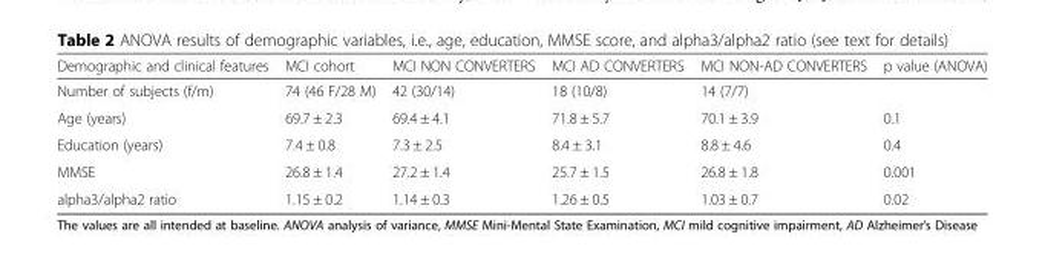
<table><thead><tr><td>Demographic and clinical features</td><td>MCI cohort</td><td>MCI NON CONVERTERS</td><td>MCI AD CONVERTERS</td><td>MCI NON-AD CONVERTERS</td><td>p value (ANOVA)</td></tr></thead><tbody><tr><td>Number of subjects (f/m)</td><td>74 (46 F/28 M)</td><td>42 (30/14)</td><td>18 (10/8)</td><td>14 (7/7)</td><td></td></tr><tr><td>Age (years)</td><td>69.7 ± 2.3</td><td>69.4 ± 4.1</td><td>71.8 ± 5.7</td><td>70.1 ± 3.9</td><td>0.1</td></tr><tr><td>Education (years)</td><td>7.4 ± 0.8</td><td>7.3 ± 2.5</td><td>8.4 ± 3.1</td><td>8.8 ± 4.6</td><td>0.4</td></tr><tr><td>MMSE</td><td>26.8 ± 1.4</td><td>27.2 ± 1.4</td><td>25.7 ± 1.5</td><td>26.8 ± 1.8</td><td>0.001</td></tr><tr><td>alpha3/alpha2 ratio</td><td>1.15 ± 0.2</td><td>1.14 ± 0.3</td><td>1.26 ± 0.5</td><td>1.03 ± 0.7</td><td>0.02</td></tr></tbody></table>